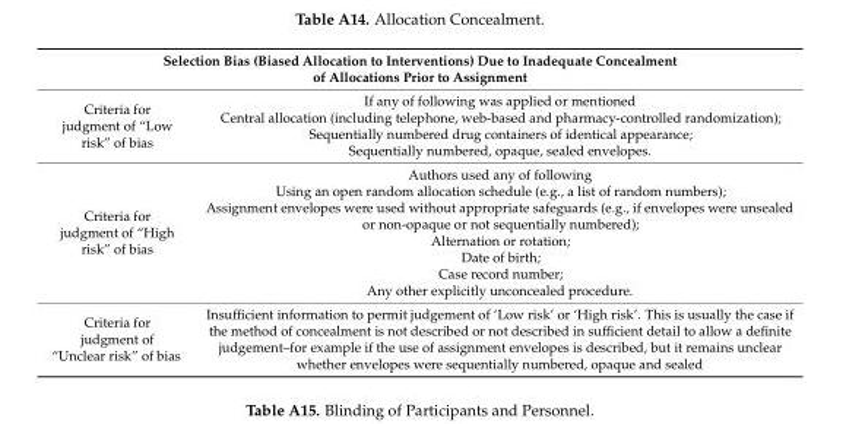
<table><thead><tr><td colspan="2">Selection Bias (Biased Allocation to Interventions) Due to Inadequate Concealment of Allocations Prior to Assignment</td></tr><tr><td>Criteria for judgment of “Low risk” of bias</td><td>If any of following was applied or mentioned Central allocation (including telephone, web-based and pharmacy-controlled randomization); Sequentially numbered drug containers of identical appearance; Sequentially numbered, opaque, sealed envelopes.</td></tr></thead><tbody><tr><td>Criteria for judgment of “High risk” of bias</td><td>Authors used any of following Using an open random allocation schedule (e.g., a list of random numbers); Assignment envelopes were used without appropriate safeguards (e.g., if envelopes were unsealed or non-opaque or not sequentially numbered); Alternation or rotation; Date of birth; Case record number; Any other explicitly unconcealed procedure.</td></tr><tr><td>Criteria for judgment of “Unclear risk” of bias</td><td>Insufficient information to permit judgement of ‘Low risk’ or ‘High risk’. This is usually the case if the method of concealment is not described or not described in sufficient detail to allow a definite judgement–for example if the use of assignment envelopes is described, but it remains unclear whether envelopes were sequentially numbered, opaque and sealed</td></tr></tbody></table>